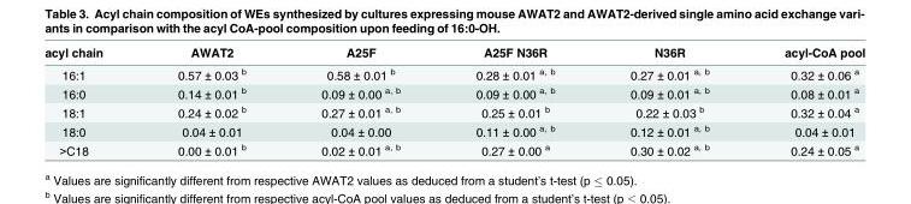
<table><thead><tr><td>acyl chain</td><td>AWAT2</td><td>A25F</td><td>A25F N36R</td><td>N36R</td><td>acyl-CoA pool</td></tr></thead><tbody><tr><td>16:1</td><td>0.57 ± 0.03 <sup>b</sup></td><td>0.58 ± 0.01 <sup>b</sup></td><td>0.28 ± 0.01 <sup>a, b</sup></td><td>0.27 ± 0.01 <sup>a, b</sup></td><td>0.32 ± 0.06 <sup>a</sup></td></tr><tr><td>16:0</td><td>0.14 ± 0.01 <sup>b</sup></td><td>0.09 ± 0.00 <sup>a, b</sup></td><td>0.09 ± 0.00 <sup>a, b</sup></td><td>0.09 ± 0.01 <sup>a, b</sup></td><td>0.08 ± 0.01 <sup>a</sup></td></tr><tr><td>18:1</td><td>0.24 ± 0.02 <sup>b</sup></td><td>0.27 ± 0.01 <sup>a, b</sup></td><td>0.25 ± 0.01 <sup>b</sup></td><td>0.22 ± 0.03 <sup>b</sup></td><td>0.32 ± 0.04 <sup>a</sup></td></tr><tr><td>18:0</td><td>0.04 ± 0.01</td><td>0.04 ± 0.00</td><td>0.11 ± 0.00 <sup>a, b</sup></td><td>0.12 ± 0.01 <sup>a, b</sup></td><td>0.04 ± 0.01</td></tr><tr><td>&gt;C18</td><td>0.00 ± 0.01 <sup>b</sup></td><td>0.02 ± 0.01 <sup>a, b</sup></td><td>0.27 ± 0.00 <sup>a</sup></td><td>0.30 ± 0.02 <sup>a, b</sup></td><td>0.24 ± 0.05 <sup>a</sup></td></tr></tbody></table>